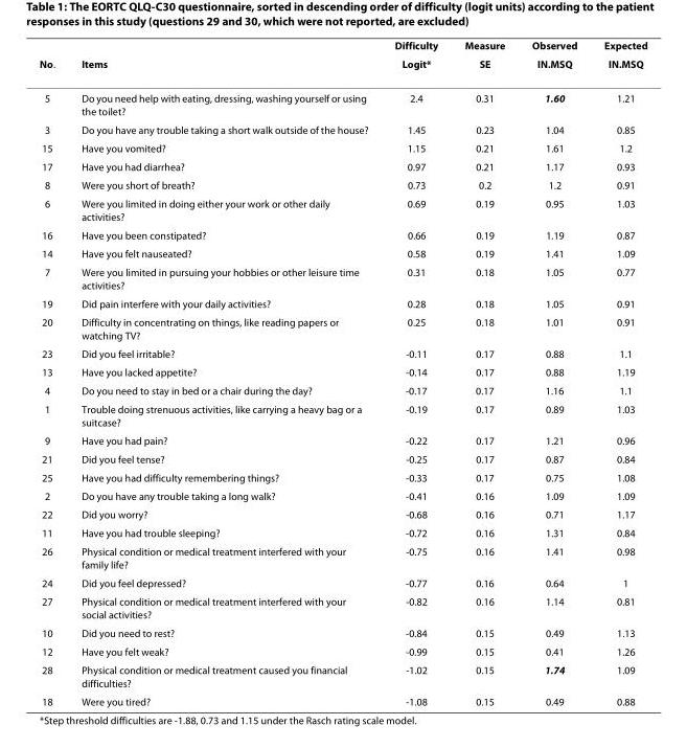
<table><thead><tr><td rowspan="2">No.</td><td rowspan="2">Items</td><td rowspan="2">Difficulty Logit*</td><td rowspan="2">Measure SE</td><td rowspan="2">Observed IN.MSQ</td><td rowspan="2">Expected IN.MSQ</td></tr><tr></tr></thead><tbody><tr><td>5</td><td>Do you need help with eating, dressing, washing yourself or using the toilet?</td><td>2.4</td><td>0.31</td><td>1.60</td><td>1.21</td></tr><tr><td>3</td><td>Do you have any trouble taking a short walk outside of the house?</td><td>1.45</td><td>0.23</td><td>1.04</td><td>0.85</td></tr><tr><td>15</td><td>Have you vomited?</td><td>1.15</td><td>0.21</td><td>1.61</td><td>1.2</td></tr><tr><td>17</td><td>Have you had diarrhea?</td><td>0.97</td><td>0.21</td><td>1.17</td><td>0.93</td></tr><tr><td>8</td><td>Were you short of breath?</td><td>0.73</td><td>0.2</td><td>1.2</td><td>0.91</td></tr><tr><td>6</td><td>Were you limited in doing either your work or other daily activities?</td><td>0.69</td><td>0.19</td><td>0.95</td><td>1.03</td></tr><tr><td>16</td><td>Have you been constipated?</td><td>0.66</td><td>0.19</td><td>1.19</td><td>0.87</td></tr><tr><td>14</td><td>Have you felt nauseated?</td><td>0.58</td><td>0.19</td><td>1.41</td><td>1.09</td></tr><tr><td>7</td><td>Were you limited in pursuing your hobbies or other leisure time activities?</td><td>0.31</td><td>0.18</td><td>1.05</td><td>0.77</td></tr><tr><td>19</td><td>Did pain interfere with your daily activities?</td><td>0.28</td><td>0.18</td><td>1.05</td><td>0.91</td></tr><tr><td>20</td><td>Difficulty in concentrating on things, like reading papers or watching TV?</td><td>0.25</td><td>0.18</td><td>1.01</td><td>0.91</td></tr><tr><td>23</td><td>Did you feel irritable?</td><td>-0.11</td><td>0.17</td><td>0.88</td><td>1.1</td></tr><tr><td>13</td><td>Have you lacked appetite?</td><td>-0.14</td><td>0.17</td><td>0.88</td><td>1.19</td></tr><tr><td>4</td><td>Do you need to stay in bed or a chair during the day?</td><td>-0.17</td><td>0.17</td><td>1.16</td><td>1.1</td></tr><tr><td>1</td><td>Trouble doing strenuous activities, like carrying a heavy bag or a suitcase?</td><td>-0.19</td><td>0.17</td><td>0.89</td><td>1.03</td></tr><tr><td>9</td><td>Have you had pain?</td><td>-0.22</td><td>0.17</td><td>1.21</td><td>0.96</td></tr><tr><td>21</td><td>Did you feel tense?</td><td>-0.25</td><td>0.17</td><td>0.87</td><td>0.84</td></tr><tr><td>25</td><td>Have you had difficulty remembering things?</td><td>-0.33</td><td>0.17</td><td>0.75</td><td>1.08</td></tr><tr><td>2</td><td>Do you have any trouble taking a long walk?</td><td>-0.41</td><td>0.16</td><td>1.09</td><td>1.09</td></tr><tr><td>22</td><td>Did you worry?</td><td>-0.68</td><td>0.16</td><td>0.71</td><td>1.17</td></tr><tr><td>11</td><td>Have you had trouble sleeping?</td><td>-0.72</td><td>0.16</td><td>1.31</td><td>0.84</td></tr><tr><td>26</td><td>Physical condition or medical treatment interfered with your family life?</td><td>-0.75</td><td>0.16</td><td>1.41</td><td>0.98</td></tr><tr><td>24</td><td>Did you feel depressed?</td><td>-0.77</td><td>0.16</td><td>0.64</td><td>1</td></tr><tr><td>27</td><td>Physical condition or medical treatment interfered with your social activities?</td><td>-0.82</td><td>0.16</td><td>1.14</td><td>0.81</td></tr><tr><td>10</td><td>Did you need to rest?</td><td>-0.84</td><td>0.15</td><td>0.49</td><td>1.13</td></tr><tr><td>12</td><td>Have you felt weak?</td><td>-0.99</td><td>0.15</td><td>0.41</td><td>1.26</td></tr><tr><td>28</td><td>Physical condition or medical treatment caused you financial difficulties?</td><td>-1.02</td><td>0.15</td><td>1.74</td><td>1.09</td></tr><tr><td>18</td><td>Were you tired?</td><td>-1.08</td><td>0.15</td><td>0.49</td><td>0.88</td></tr></tbody></table>